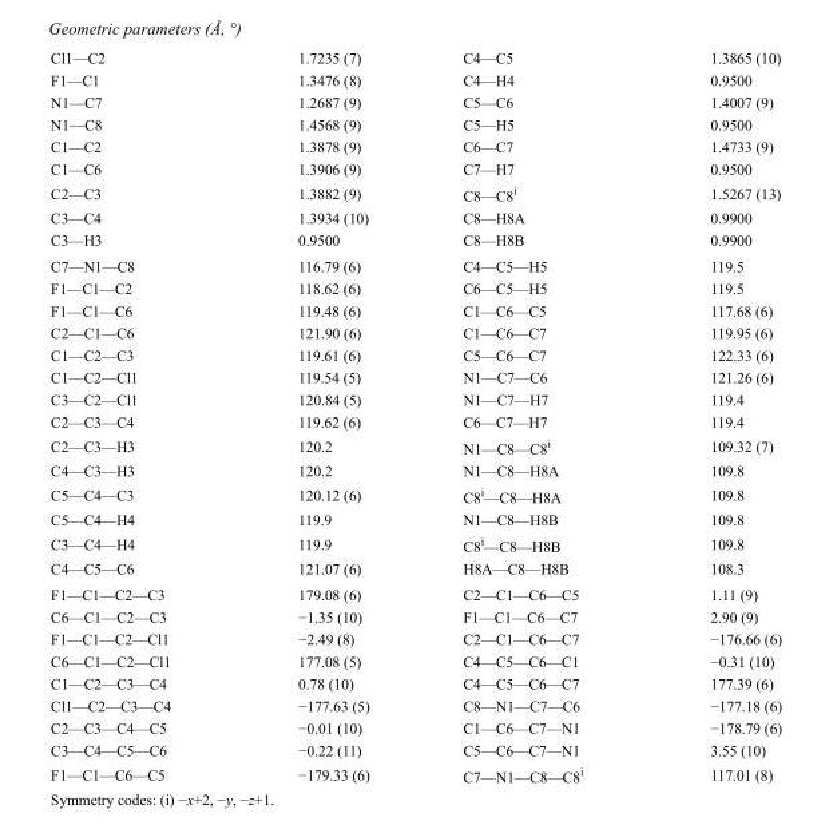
<table><tbody><tr><td>Cl1—C2</td><td>1.7235 (7)</td><td>C4—C5</td><td>1.3865 (10)</td></tr><tr><td>F1—C1</td><td>1.3476 (8)</td><td>C4—H4</td><td>0.9500</td></tr><tr><td>N1—C7</td><td>1.2687 (9)</td><td>C5—C6</td><td>1.4007 (9)</td></tr><tr><td>N1—C8</td><td>1.4568 (9)</td><td>C5—H5</td><td>0.9500</td></tr><tr><td>C1—C2</td><td>1.3878 (9)</td><td>C6—C7</td><td>1.4733 (9)</td></tr><tr><td>C1—C6</td><td>1.3906 (9)</td><td>C7—H7</td><td>0.9500</td></tr><tr><td>C2—C3</td><td>1.3882 (9)</td><td>C8—C8<sup>i</sup></td><td>1.5267 (13)</td></tr><tr><td>C3—C4</td><td>1.3934 (10)</td><td>C8—H8A</td><td>0.9900</td></tr><tr><td>C3—H3</td><td>0.9500</td><td>C8—H8B</td><td>0.9900</td></tr><tr><td>C7—N1—C8</td><td>116.79 (6)</td><td>C4—C5—H5</td><td>119.5</td></tr><tr><td>F1—C1—C2</td><td>118.62 (6)</td><td>C6—C5—H5</td><td>119.5</td></tr><tr><td>F1—C1—C6</td><td>119.48 (6)</td><td>C1—C6—C5</td><td>117.68 (6)</td></tr><tr><td>C2—C1—C6</td><td>121.90 (6)</td><td>C1—C6—C7</td><td>119.95 (6)</td></tr><tr><td>C1—C2—C3</td><td>119.61 (6)</td><td>C5—C6—C7</td><td>122.33 (6)</td></tr><tr><td>C1—C2—Cl1</td><td>119.54 (5)</td><td>N1—C7—C6</td><td>121.26 (6)</td></tr><tr><td>C3—C2—Cl1</td><td>120.84 (5)</td><td>N1—C7—H7</td><td>119.4</td></tr><tr><td>C2—C3—C4</td><td>119.62 (6)</td><td>C6—C7—H7</td><td>119.4</td></tr><tr><td>C2—C3—H3</td><td>120.2</td><td>N1—C8—C8<sup>i</sup></td><td>109.32 (7)</td></tr><tr><td>C4—C3—H3</td><td>120.2</td><td>N1—C8—H8A</td><td>109.8</td></tr><tr><td>C5—C4—C3</td><td>120.12 (6)</td><td>C8<sup>i</sup>—C8—H8A</td><td>109.8</td></tr><tr><td>C5—C4—H4</td><td>119.9</td><td>N1—C8—H8B</td><td>109.8</td></tr><tr><td>C3—C4—H4</td><td>119.9</td><td>C8<sup>i</sup>—C8—H8B</td><td>109.8</td></tr><tr><td>C4—C5—C6</td><td>121.07 (6)</td><td>H8A—C8—H8B</td><td>108.3</td></tr><tr><td>F1—C1—C2—C3</td><td>179.08 (6)</td><td>C2—C1—C6—C5</td><td>1.11 (9)</td></tr><tr><td>C6—C1—C2—C3</td><td>−1.35 (10)</td><td>F1—C1—C6—C7</td><td>2.90 (9)</td></tr><tr><td>F1—C1—C2—Cl1</td><td>−2.49 (8)</td><td>C2—C1—C6—C7</td><td>−176.66 (6)</td></tr><tr><td>C6—C1—C2—Cl1</td><td>177.08 (5)</td><td>C4—C5—C6—C1</td><td>−0.31 (10)</td></tr><tr><td>C1—C2—C3—C4</td><td>0.78 (10)</td><td>C4—C5—C6—C7</td><td>177.39 (6)</td></tr><tr><td>Cl1—C2—C3—C4</td><td>−177.63 (5)</td><td>C8—N1—C7—C6</td><td>−177.18 (6)</td></tr><tr><td>C2—C3—C4—C5</td><td>−0.01 (10)</td><td>C1—C6—C7—N1</td><td>−178.79 (6)</td></tr><tr><td>C3—C4—C5—C6</td><td>−0.22 (11)</td><td>C5—C6—C7—N1</td><td>3.55 (10)</td></tr><tr><td>F1—C1—C6—C5</td><td>−179.33 (6)</td><td>C7—N1—C8—C8<sup>i</sup></td><td>117.01 (8)</td></tr></tbody></table>